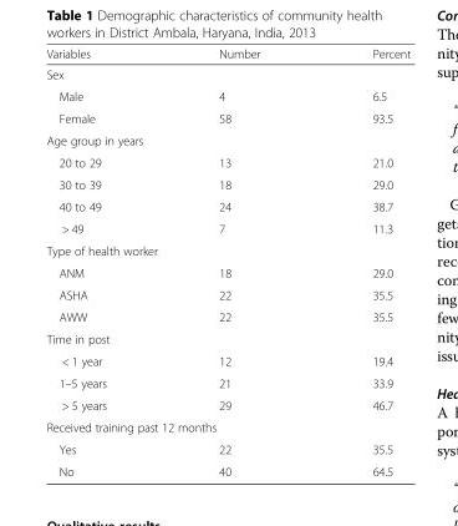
<table><thead><tr><td>Variables</td><td>Number</td><td>Percent</td></tr></thead><tbody><tr><td colspan="3">Sex</td></tr><tr><td>Male</td><td>4</td><td>6.5</td></tr><tr><td>Female</td><td>58</td><td>93.5</td></tr><tr><td colspan="3">Age group in years</td></tr><tr><td>20 to 29</td><td>13</td><td>21.0</td></tr><tr><td>30 to 39</td><td>18</td><td>29.0</td></tr><tr><td>40 to 49</td><td>24</td><td>38.7</td></tr><tr><td>&gt; 49</td><td>7</td><td>11.3</td></tr><tr><td colspan="3">Type of health worker</td></tr><tr><td>ANM</td><td>18</td><td>29.0</td></tr><tr><td>ASHA</td><td>22</td><td>35.5</td></tr><tr><td>AWW</td><td>22</td><td>35.5</td></tr><tr><td colspan="3">Time in post</td></tr><tr><td>&lt; 1 year</td><td>12</td><td>19.4</td></tr><tr><td>1–5 years</td><td>21</td><td>33.9</td></tr><tr><td>&gt; 5 years</td><td>29</td><td>46.7</td></tr><tr><td colspan="3">Received training past 12 months</td></tr><tr><td>Yes</td><td>22</td><td>35.5</td></tr><tr><td>No</td><td>40</td><td>64.5</td></tr></tbody></table>